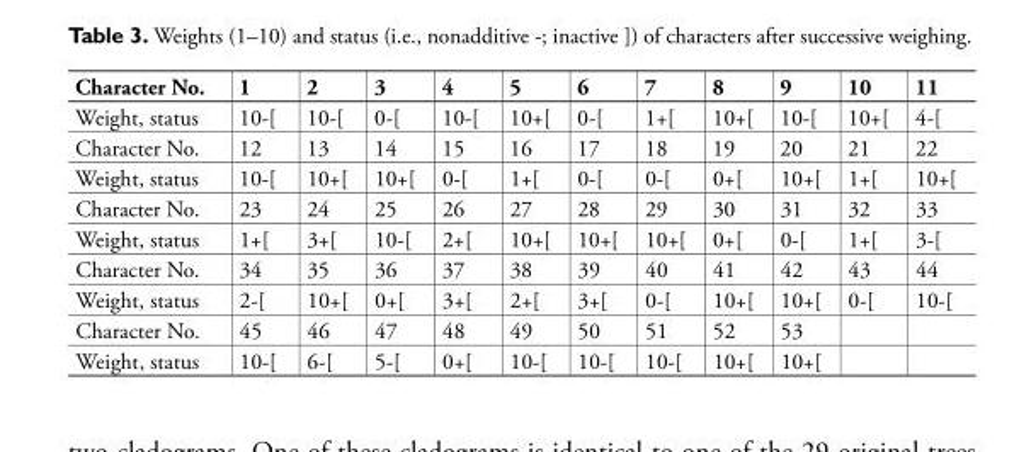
<table><thead><tr><td>Character No.</td><td>1</td><td>2</td><td>3</td><td>4</td><td>5</td><td>6</td><td>7</td><td>8</td><td>9</td><td>10</td><td>11</td></tr></thead><tbody><tr><td>Weight, status</td><td>10-[</td><td>10-[</td><td>0-[</td><td>10-[</td><td>10+[</td><td>0-[</td><td>1+[</td><td>10+[</td><td>10-[</td><td>10+[</td><td>4-[</td></tr><tr><td>Character No.</td><td>12</td><td>13</td><td>14</td><td>15</td><td>16</td><td>17</td><td>18</td><td>19</td><td>20</td><td>21</td><td>22</td></tr><tr><td>Weight, status</td><td>10-[</td><td>10+[</td><td>10+[</td><td>0-[</td><td>1+[</td><td>0-[</td><td>0-[</td><td>0+[</td><td>10+[</td><td>1+[</td><td>10+[</td></tr><tr><td>Character No.</td><td>23</td><td>24</td><td>25</td><td>26</td><td>27</td><td>28</td><td>29</td><td>30</td><td>31</td><td>32</td><td>33</td></tr><tr><td>Weight, status</td><td>1+[</td><td>3+[</td><td>10-[</td><td>2+[</td><td>10+[</td><td>10+[</td><td>10+[</td><td>0+[</td><td>0-[</td><td>1+[</td><td>3-[</td></tr><tr><td>Character No.</td><td>34</td><td>35</td><td>36</td><td>37</td><td>38</td><td>39</td><td>40</td><td>41</td><td>42</td><td>43</td><td>44</td></tr><tr><td>Weight, status</td><td>2-[</td><td>10+[</td><td>0+[</td><td>3+[</td><td>2+[</td><td>3+[</td><td>0-[</td><td>10+[</td><td>10+[</td><td>0-[</td><td>10-[</td></tr><tr><td>Character No.</td><td>45</td><td>46</td><td>47</td><td>48</td><td>49</td><td>50</td><td>51</td><td>52</td><td>53</td><td></td><td></td></tr><tr><td>Weight, status</td><td>10-[</td><td>6-[</td><td>5-[</td><td>0+[</td><td>10-[</td><td>10-[</td><td>10-[</td><td>10+[</td><td>10+[</td><td></td><td></td></tr></tbody></table>